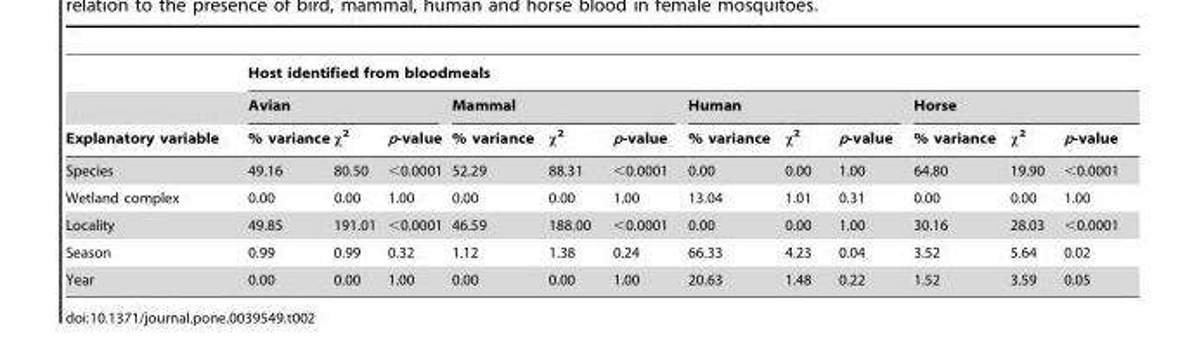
<table><thead><tr><td rowspan="3">Explanatory variable</td><td colspan="12">Host identified from bloodmeals</td></tr><tr><td colspan="3">Avian</td><td colspan="3">Mammal</td><td colspan="3">Human</td><td colspan="3">Horse</td></tr><tr><td>% variance</td><td>χ<sup>2</sup></td><td>p-value</td><td>% variance</td><td>χ<sup>2</sup></td><td>p-value</td><td>% variance</td><td>χ<sup>2</sup></td><td>p-value</td><td>% variance</td><td>χ<sup>2</sup></td><td>p-value</td></tr></thead><tbody><tr><td>Species</td><td>49.16</td><td>80.50</td><td>&lt;0.0001</td><td>52.29</td><td>88.31</td><td>&lt;0.0001</td><td>0.00</td><td>0.00</td><td>1.00</td><td>64.80</td><td>19.90</td><td>&lt;0.0001</td></tr><tr><td>Wetland complex</td><td>0.00</td><td>0.00</td><td>1.00</td><td>0.00</td><td>0.00</td><td>1.00</td><td>13.04</td><td>1.01</td><td>0.31</td><td>0.00</td><td>0.00</td><td>1.00</td></tr><tr><td>Locality</td><td>49.85</td><td>191.01</td><td>&lt;0.0001</td><td>46.59</td><td>188.00</td><td>&lt;0.0001</td><td>0.00</td><td>0.00</td><td>1.00</td><td>30.16</td><td>28.03</td><td>&lt;0.0001</td></tr><tr><td>Season</td><td>0.99</td><td>0.99</td><td>0.32</td><td>1.12</td><td>1.38</td><td>0.24</td><td>66.33</td><td>4.23</td><td>0.04</td><td>3.52</td><td>5.64</td><td>0.02</td></tr><tr><td>Year</td><td>0.00</td><td>0.00</td><td>1.00</td><td>0.00</td><td>0.00</td><td>1.00</td><td>20.63</td><td>1.48</td><td>0.22</td><td>1.52</td><td>3.59</td><td>0.05</td></tr></tbody></table>